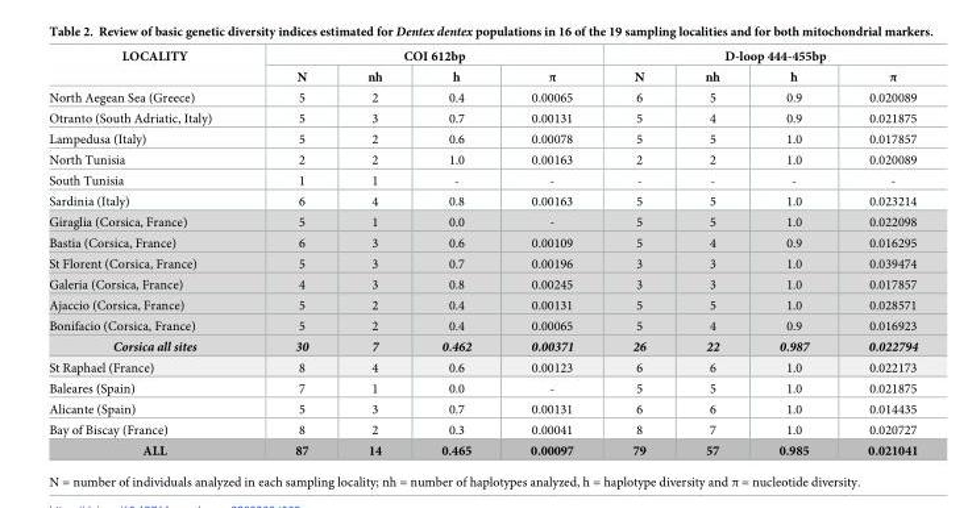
<table><thead><tr><td rowspan="2">LOCALITY</td><td colspan="4">COI 612bp</td><td colspan="4">D-loop 444-455bp</td></tr><tr><td>N</td><td>nh</td><td>h</td><td>π</td><td>N</td><td>nh</td><td>h</td><td>π</td></tr></thead><tbody><tr><td>North Aegean Sea (Greece)</td><td>5</td><td>2</td><td>0.4</td><td>0.00065</td><td>6</td><td>5</td><td>0.9</td><td>0.020089</td></tr><tr><td>Otranto (South Adriatic, Italy)</td><td>5</td><td>3</td><td>0.7</td><td>0.00131</td><td>5</td><td>4</td><td>0.9</td><td>0.021875</td></tr><tr><td>Lampedusa (Italy)</td><td>5</td><td>2</td><td>0.6</td><td>0.00078</td><td>5</td><td>5</td><td>1.0</td><td>0.017857</td></tr><tr><td>North Tunisia</td><td>2</td><td>2</td><td>1.0</td><td>0.00163</td><td>2</td><td>2</td><td>1.0</td><td>0.020089</td></tr><tr><td>South Tunisia</td><td>1</td><td>1</td><td>-</td><td>-</td><td>-</td><td>-</td><td>-</td><td>-</td></tr><tr><td>Sardinia (Italy)</td><td>6</td><td>4</td><td>0.8</td><td>0.00163</td><td>5</td><td>5</td><td>1.0</td><td>0.023214</td></tr><tr><td>Giraglia (Corsica, France)</td><td>5</td><td>1</td><td>0.0</td><td>-</td><td>5</td><td>5</td><td>1.0</td><td>0.022098</td></tr><tr><td>Bastia (Corsica, France)</td><td>6</td><td>3</td><td>0.6</td><td>0.00109</td><td>5</td><td>4</td><td>0.9</td><td>0.016295</td></tr><tr><td>St Florent (Corsica, France)</td><td>5</td><td>3</td><td>0.7</td><td>0.00196</td><td>3</td><td>3</td><td>1.0</td><td>0.039474</td></tr><tr><td>Galeria (Corsica, France)</td><td>4</td><td>3</td><td>0.8</td><td>0.00245</td><td>3</td><td>3</td><td>1.0</td><td>0.017857</td></tr><tr><td>Ajaccio (Corsica, France)</td><td>5</td><td>2</td><td>0.4</td><td>0.00131</td><td>5</td><td>5</td><td>1.0</td><td>0.028571</td></tr><tr><td>Bonifacio (Corsica, France)</td><td>5</td><td>2</td><td>0.4</td><td>0.00065</td><td>5</td><td>4</td><td>0.9</td><td>0.016923</td></tr><tr><td>Corsica all sites</td><td>30</td><td>7</td><td>0.462</td><td>0.00371</td><td>26</td><td>22</td><td>0.987</td><td>0.022794</td></tr><tr><td>St Raphael (France)</td><td>8</td><td>4</td><td>0.6</td><td>0.00123</td><td>6</td><td>6</td><td>1.0</td><td>0.022173</td></tr><tr><td>Baleares (Spain)</td><td>7</td><td>1</td><td>0.0</td><td>-</td><td>5</td><td>5</td><td>1.0</td><td>0.021875</td></tr><tr><td>Alicante (Spain)</td><td>5</td><td>3</td><td>0.7</td><td>0.00131</td><td>6</td><td>6</td><td>1.0</td><td>0.014435</td></tr><tr><td>Bay of Biscay (France)</td><td>8</td><td>2</td><td>0.3</td><td>0.00041</td><td>8</td><td>7</td><td>1.0</td><td>0.020727</td></tr><tr><td>ALL</td><td>87</td><td>14</td><td>0.465</td><td>0.00097</td><td>79</td><td>57</td><td>0.985</td><td>0.021041</td></tr></tbody></table>